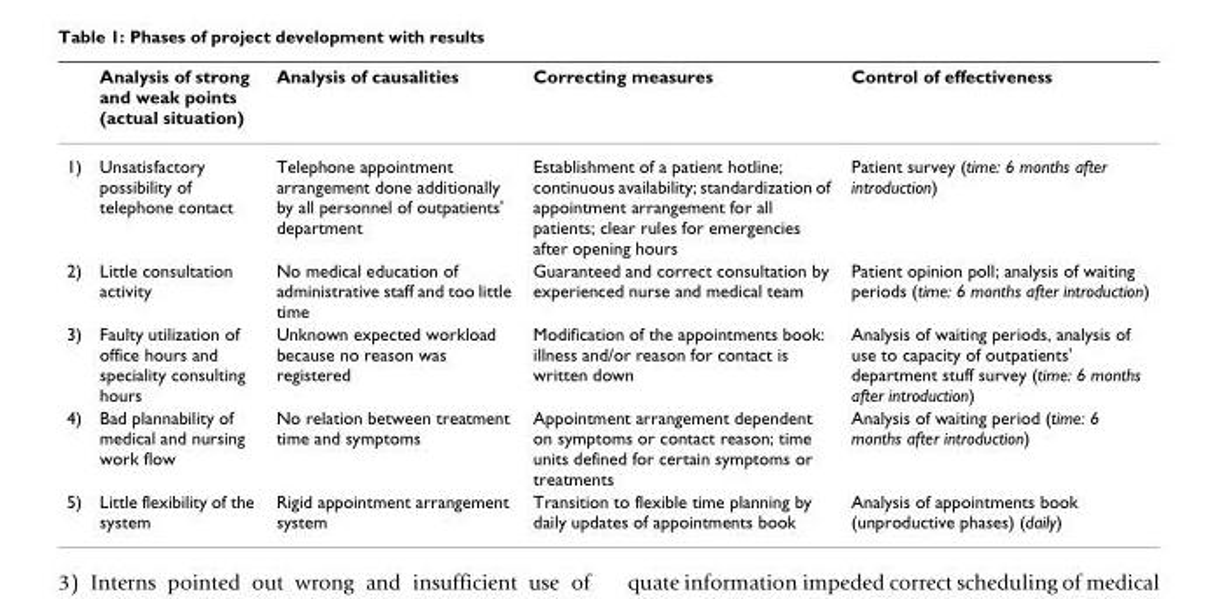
<table><thead><tr><td></td><td>Analysis of strong and weak points (actual situation)</td><td>Analysis of causalities</td><td>Correcting measures</td><td>Control of effectiveness</td></tr></thead><tbody><tr><td>1)</td><td>Unsatisfactory possibility of telephone contact</td><td>Telephone appointment arrangement done additionally by all personnel of outpatients&#x27; department</td><td>Establishment of a patient hotline; continuous availability; standardization of appointment arrangement for all patients; clear rules for emergencies after opening hours</td><td>Patient survey (time: 6 months after introduction)</td></tr><tr><td>2)</td><td>Little consultation activity</td><td>No medical education of administrative staff and too little time</td><td>Guaranteed and correct consultation by experienced nurse and medical team</td><td>Patient opinion poll; analysis of waiting periods (time: 6 months after introduction)</td></tr><tr><td>3)</td><td>Faulty utilization of office hours and speciality consulting hours</td><td>Unknown expected workload because no reason was registered</td><td>Modification of the appointments book: illness and/or reason for contact is written down</td><td>Analysis of waiting periods, analysis of use to capacity of outpatients&#x27; department stuff survey (time: 6 months after introduction)</td></tr><tr><td>4)</td><td>Bad plannability of medical and nursing work flow</td><td>No relation between treatment time and symptoms</td><td>Appointment arrangement dependent on symptoms or contact reason; time units defined for certain symptoms or treatments</td><td>Analysis of waiting period (time: 6 months after introduction)</td></tr><tr><td>5)</td><td>Little flexibility of the system</td><td>Rigid appointment arrangement system</td><td>Transition to flexible time planning by daily updates of appointments book</td><td>Analysis of appointments book (unproductive phases) (daily)</td></tr></tbody></table>